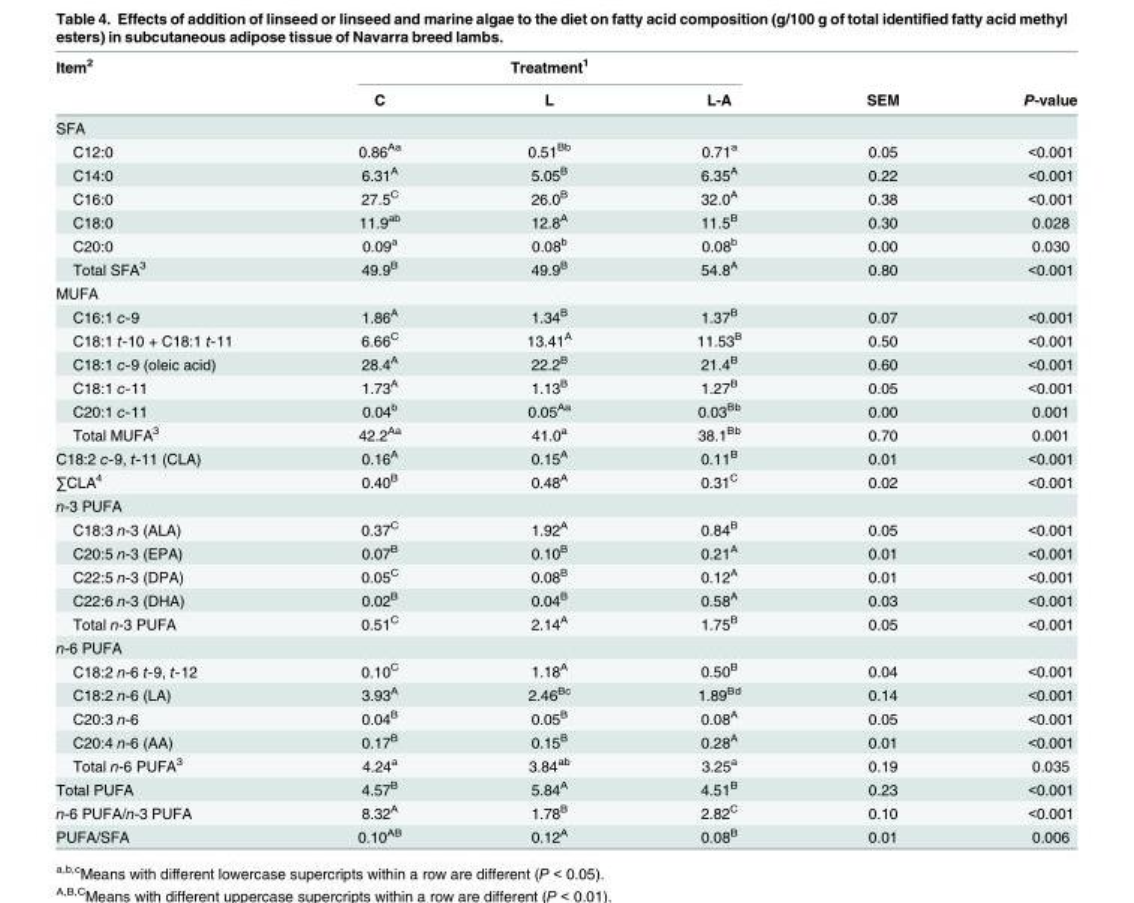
<table><thead><tr><td rowspan="2">Item<sup>2</sup></td><td colspan="3">Treatment<sup>1</sup></td><td rowspan="2">SEM</td><td rowspan="2">P-value</td></tr><tr><td>C</td><td>L</td><td>L-A</td></tr></thead><tbody><tr><td colspan="6">SFA</td></tr><tr><td>C12:0</td><td>0.86<sup>Aa</sup></td><td>0.51<sup>Bb</sup></td><td>0.71<sup>a</sup></td><td>0.05</td><td>&lt;0.001</td></tr><tr><td>C14:0</td><td>6.31<sup>A</sup></td><td>5.05<sup>B</sup></td><td>6.35<sup>A</sup></td><td>0.22</td><td>&lt;0.001</td></tr><tr><td>C16:0</td><td>27.5<sup>C</sup></td><td>26.0<sup>B</sup></td><td>32.0<sup>A</sup></td><td>0.38</td><td>&lt;0.001</td></tr><tr><td>C18:0</td><td>11.9<sup>ab</sup></td><td>12.8<sup>A</sup></td><td>11.5<sup>B</sup></td><td>0.30</td><td>0.028</td></tr><tr><td>C20:0</td><td>0.09<sup>a</sup></td><td>0.08<sup>b</sup></td><td>0.08<sup>b</sup></td><td>0.00</td><td>0.030</td></tr><tr><td>Total SFA<sup>3</sup></td><td>49.9<sup>B</sup></td><td>49.9<sup>B</sup></td><td>54.8<sup>A</sup></td><td>0.80</td><td>&lt;0.001</td></tr><tr><td colspan="6">MUFA</td></tr><tr><td>C16:1 c-9</td><td>1.86<sup>A</sup></td><td>1.34<sup>B</sup></td><td>1.37<sup>B</sup></td><td>0.07</td><td>&lt;0.001</td></tr><tr><td>C18:1 t-10 + C18:1 t-11</td><td>6.66<sup>C</sup></td><td>13.41<sup>A</sup></td><td>11.53<sup>B</sup></td><td>0.50</td><td>&lt;0.001</td></tr><tr><td>C18:1 c-9 (oleic acid)</td><td>28.4<sup>A</sup></td><td>22.2<sup>B</sup></td><td>21.4<sup>B</sup></td><td>0.60</td><td>&lt;0.001</td></tr><tr><td>C18:1 c-11</td><td>1.73<sup>A</sup></td><td>1.13<sup>B</sup></td><td>1.27<sup>B</sup></td><td>0.05</td><td>&lt;0.001</td></tr><tr><td>C20:1 c-11</td><td>0.04<sup>b</sup></td><td>0.05<sup>Aa</sup></td><td>0.03<sup>Bb</sup></td><td>0.00</td><td>0.001</td></tr><tr><td>Total MUFA<sup>3</sup></td><td>42.2<sup>Aa</sup></td><td>41.0<sup>a</sup></td><td>38.1<sup>Bb</sup></td><td>0.70</td><td>0.001</td></tr><tr><td>C18:2 c-9, t-11 (CLA)</td><td>0.16<sup>A</sup></td><td>0.15<sup>A</sup></td><td>0.11<sup>B</sup></td><td>0.01</td><td>&lt;0.001</td></tr><tr><td>∑CLA<sup>4</sup></td><td>0.40<sup>B</sup></td><td>0.48<sup>A</sup></td><td>0.31<sup>C</sup></td><td>0.02</td><td>&lt;0.001</td></tr><tr><td colspan="6">n-3 PUFA</td></tr><tr><td>C18:3 n-3 (ALA)</td><td>0.37<sup>C</sup></td><td>1.92<sup>A</sup></td><td>0.84<sup>B</sup></td><td>0.05</td><td>&lt;0.001</td></tr><tr><td>C20:5 n-3 (EPA)</td><td>0.07<sup>B</sup></td><td>0.10<sup>B</sup></td><td>0.21<sup>A</sup></td><td>0.01</td><td>&lt;0.001</td></tr><tr><td>C22:5 n-3 (DPA)</td><td>0.05<sup>C</sup></td><td>0.08<sup>B</sup></td><td>0.12<sup>A</sup></td><td>0.01</td><td>&lt;0.001</td></tr><tr><td>C22:6 n-3 (DHA)</td><td>0.02<sup>B</sup></td><td>0.04<sup>B</sup></td><td>0.58<sup>A</sup></td><td>0.03</td><td>&lt;0.001</td></tr><tr><td>Total n-3 PUFA</td><td>0.51<sup>C</sup></td><td>2.14<sup>A</sup></td><td>1.75<sup>B</sup></td><td>0.05</td><td>&lt;0.001</td></tr><tr><td colspan="6">n-6 PUFA</td></tr><tr><td>C18:2 n-6 t-9, t-12</td><td>0.10<sup>C</sup></td><td>1.18<sup>A</sup></td><td>0.50<sup>B</sup></td><td>0.04</td><td>&lt;0.001</td></tr><tr><td>C18:2 n-6 (LA)</td><td>3.93<sup>A</sup></td><td>2.46<sup>Bc</sup></td><td>1.89<sup>Bd</sup></td><td>0.14</td><td>&lt;0.001</td></tr><tr><td>C20:3 n-6</td><td>0.04<sup>B</sup></td><td>0.05<sup>B</sup></td><td>0.08<sup>A</sup></td><td>0.05</td><td>&lt;0.001</td></tr><tr><td>C20:4 n-6 (AA)</td><td>0.17<sup>B</sup></td><td>0.15<sup>B</sup></td><td>0.28<sup>A</sup></td><td>0.01</td><td>&lt;0.001</td></tr><tr><td>Total n-6 PUFA<sup>3</sup></td><td>4.24<sup>a</sup></td><td>3.84<sup>ab</sup></td><td>3.25<sup>a</sup></td><td>0.19</td><td>0.035</td></tr><tr><td>Total PUFA</td><td>4.57<sup>B</sup></td><td>5.84<sup>A</sup></td><td>4.51<sup>B</sup></td><td>0.23</td><td>&lt;0.001</td></tr><tr><td>n-6 PUFA/n-3 PUFA</td><td>8.32<sup>A</sup></td><td>1.78<sup>B</sup></td><td>2.82<sup>C</sup></td><td>0.10</td><td>&lt;0.001</td></tr><tr><td>PUFA/SFA</td><td>0.10<sup>AB</sup></td><td>0.12<sup>A</sup></td><td>0.08<sup>B</sup></td><td>0.01</td><td>0.006</td></tr></tbody></table>